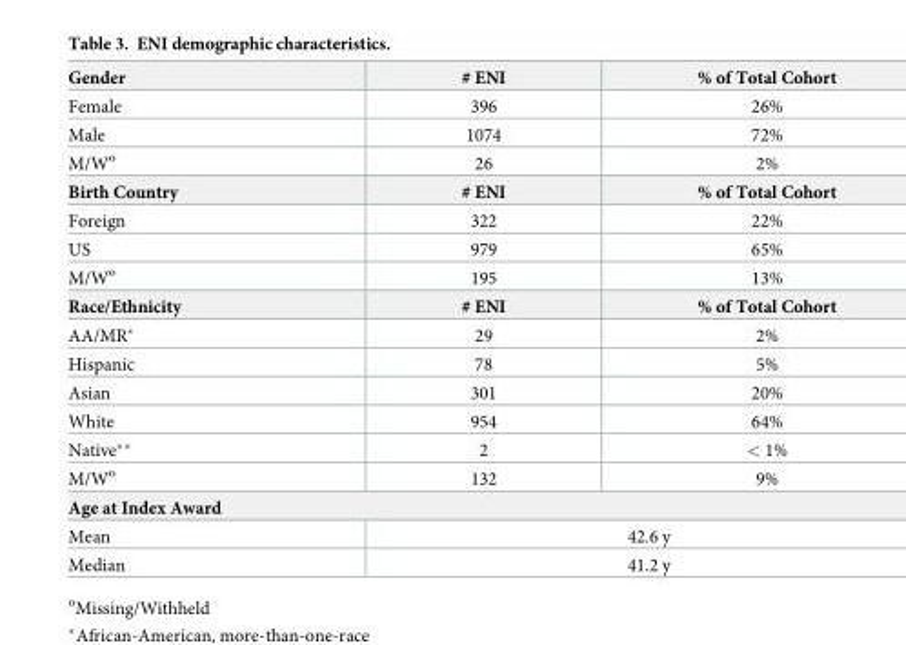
<table><tbody><tr><td>Gender</td><td># ENI</td><td>% of Total Cohort</td></tr><tr><td>Female</td><td>396</td><td>26%</td></tr><tr><td>Male</td><td>1074</td><td>72%</td></tr><tr><td>M/W<sup>o</sup></td><td>26</td><td>2%</td></tr><tr><td>Birth Country</td><td># ENI</td><td>% of Total Cohort</td></tr><tr><td>Foreign</td><td>322</td><td>22%</td></tr><tr><td>US</td><td>979</td><td>65%</td></tr><tr><td>M/W<sup>o</sup></td><td>195</td><td>13%</td></tr><tr><td>Race/Ethnicity</td><td># ENI</td><td>% of Total Cohort</td></tr><tr><td>AA/MR*</td><td>29</td><td>2%</td></tr><tr><td>Hispanic</td><td>78</td><td>5%</td></tr><tr><td>Asian</td><td>301</td><td>20%</td></tr><tr><td>White</td><td>954</td><td>64%</td></tr><tr><td>Native**</td><td>2</td><td>&lt; 1%</td></tr><tr><td>M/W<sup>o</sup></td><td>132</td><td>9%</td></tr><tr><td colspan="3">Age at Index Award</td></tr><tr><td>Mean</td><td colspan="2">42.6 y</td></tr><tr><td>Median</td><td colspan="2">41.2 y</td></tr></tbody></table>